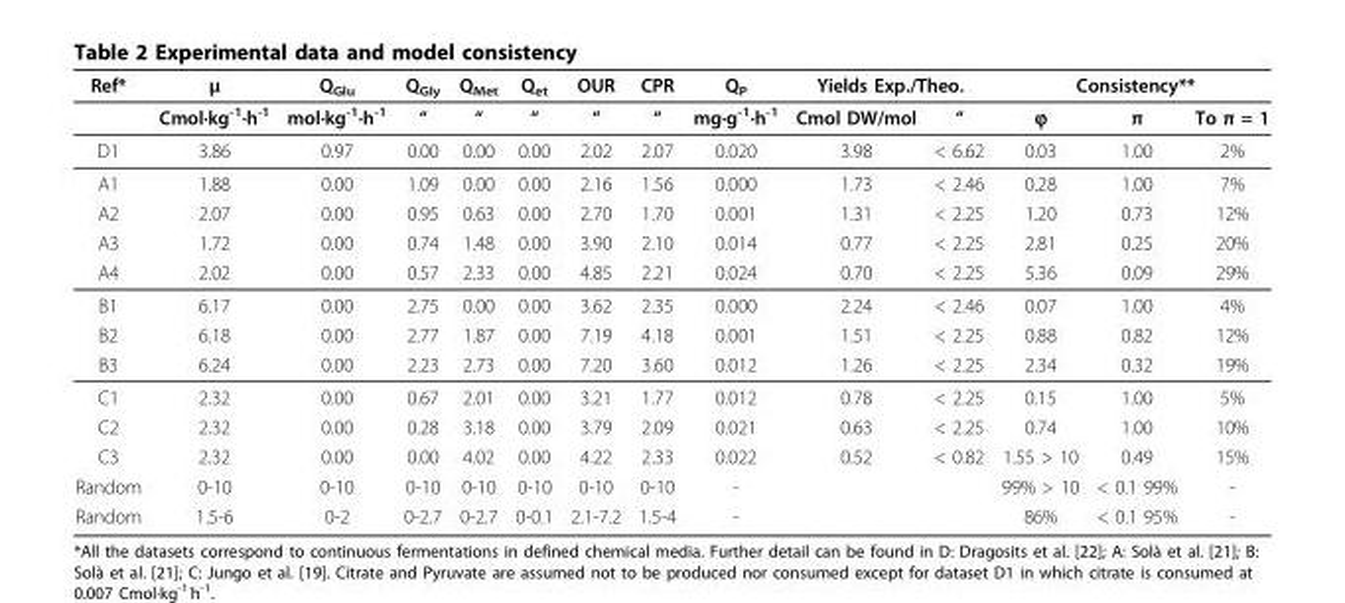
<table><thead><tr><td rowspan="3">Ref* D1</td><td rowspan="3">μ Cmol·kg-1·h-1 3.86</td><td rowspan="3">QGlu mol·kg-1·h-1 0.97</td><td rowspan="3">QGly “ 0.00</td><td rowspan="3">QMet “ 0.00</td><td rowspan="3">Qet “ 0.00</td><td rowspan="3">OUR “ 2.02</td><td rowspan="3">CPR “ 2.07</td><td rowspan="3">QP mg·g-1·h-1 0.020</td><td colspan="2">Yields Exp./Theo.</td><td colspan="3">Consistency**</td></tr><tr><td rowspan="2">Cmol DW/mol 3.98</td><td rowspan="2">“ &lt; 6.62</td><td rowspan="2">ϕ 0.03</td><td rowspan="2">π 1.00</td><td rowspan="2">To π = 1 2%</td></tr><tr></tr></thead><tbody><tr><td>A1</td><td>1.88</td><td>0.00</td><td>1.09</td><td>0.00</td><td>0.00</td><td>2.16</td><td>1.56</td><td>0.000</td><td>1.73</td><td>&lt; 2.46</td><td>0.28</td><td>1.00</td><td>7%</td></tr><tr><td>A2</td><td>2.07</td><td>0.00</td><td>0.95</td><td>0.63</td><td>0.00</td><td>2.70</td><td>1.70</td><td>0.001</td><td>1.31</td><td>&lt; 2.25</td><td>1.20</td><td>0.73</td><td>12%</td></tr><tr><td>A3</td><td>1.72</td><td>0.00</td><td>0.74</td><td>1.48</td><td>0.00</td><td>3.90</td><td>2.10</td><td>0.014</td><td>0.77</td><td>&lt; 2.25</td><td>2.81</td><td>0.25</td><td>20%</td></tr><tr><td>A4</td><td>2.02</td><td>0.00</td><td>0.57</td><td>2.33</td><td>0.00</td><td>4.85</td><td>2.21</td><td>0.024</td><td>0.70</td><td>&lt; 2.25</td><td>5.36</td><td>0.09</td><td>29%</td></tr><tr><td>B1</td><td>6.17</td><td>0.00</td><td>2.75</td><td>0.00</td><td>0.00</td><td>3.62</td><td>2.35</td><td>0.000</td><td>2.24</td><td>&lt; 2.46</td><td>0.07</td><td>1.00</td><td>4%</td></tr><tr><td>B2</td><td>6.18</td><td>0.00</td><td>2.77</td><td>1.87</td><td>0.00</td><td>7.19</td><td>4.18</td><td>0.001</td><td>1.51</td><td>&lt; 2.25</td><td>0.88</td><td>0.82</td><td>12%</td></tr><tr><td>B3</td><td>6.24</td><td>0.00</td><td>2.23</td><td>2.73</td><td>0.00</td><td>7.20</td><td>3.60</td><td>0.012</td><td>1.26</td><td>&lt; 2.25</td><td>2.34</td><td>0.32</td><td>19%</td></tr><tr><td>C1</td><td>2.32</td><td>0.00</td><td>0.67</td><td>2.01</td><td>0.00</td><td>3.21</td><td>1.77</td><td>0.012</td><td>0.78</td><td>&lt; 2.25</td><td>0.15</td><td>1.00</td><td>5%</td></tr><tr><td>C2</td><td>2.32</td><td>0.00</td><td>0.28</td><td>3.18</td><td>0.00</td><td>3.79</td><td>2.09</td><td>0.021</td><td>0.63</td><td>&lt; 2.25</td><td>0.74</td><td>1.00</td><td>10%</td></tr><tr><td>C3</td><td>2.32</td><td>0.00</td><td>0.00</td><td>4.02</td><td>0.00</td><td>4.22</td><td>2.33</td><td>0.022</td><td>0.52</td><td>&lt; 0.82</td><td>1.55 &gt; 10</td><td>0.49</td><td>15%</td></tr><tr><td>Random</td><td>0-10</td><td>0-10</td><td>0-10</td><td>0-10</td><td>0-10</td><td>0-10</td><td>0-10</td><td>-</td><td></td><td></td><td>99% &gt; 10</td><td>&lt; 0.1 99%</td><td>-</td></tr><tr><td>Random</td><td>1.5-6</td><td>0-2</td><td>0-2.7</td><td>0-2.7</td><td>0-0.1</td><td>2.1-7.2</td><td>1.5-4</td><td>-</td><td></td><td></td><td>86%</td><td>&lt; 0.1 95%</td><td>-</td></tr></tbody></table>